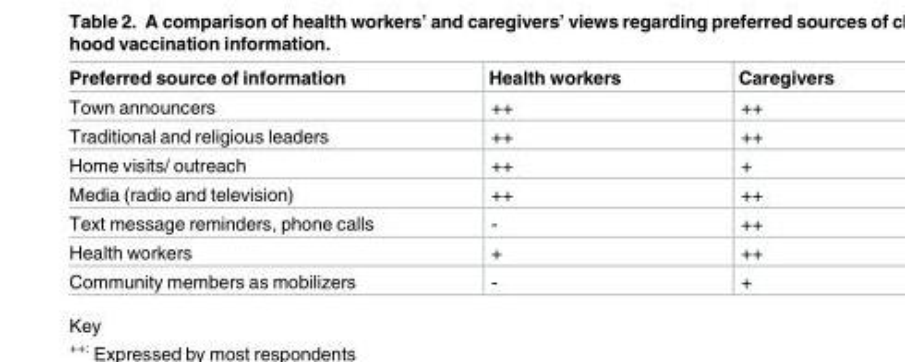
<table><thead><tr><td>Preferred source of information</td><td>Health workers</td><td>Caregivers</td></tr></thead><tbody><tr><td>Town announcers</td><td>++</td><td>++</td></tr><tr><td>Traditional and religious leaders</td><td>++</td><td>++</td></tr><tr><td>Home visits/ outreach</td><td>++</td><td>+</td></tr><tr><td>Media (radio and television)</td><td>++</td><td>++</td></tr><tr><td>Text message reminders, phone calls</td><td>-</td><td>++</td></tr><tr><td>Health workers</td><td>+</td><td>++</td></tr><tr><td>Community members as mobilizers</td><td>-</td><td>+</td></tr></tbody></table>